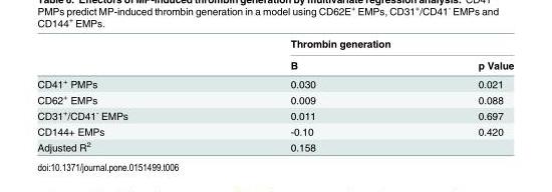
<table><thead><tr><td rowspan="2"></td><td colspan="2">Thrombin generation</td></tr><tr><td>B</td><td>p Value</td></tr></thead><tbody><tr><td>CD41<sup>+</sup> PMPs</td><td>0.030</td><td>0.021</td></tr><tr><td>CD62<sup>+</sup> EMPs</td><td>0.009</td><td>0.088</td></tr><tr><td>CD31<sup>+</sup>/CD41<sup>-</sup> EMPs</td><td>0.011</td><td>0.697</td></tr><tr><td>CD144+ EMPs</td><td>-0.10</td><td>0.420</td></tr><tr><td>Adjusted R<sup>2</sup></td><td>0.158</td><td></td></tr></tbody></table>